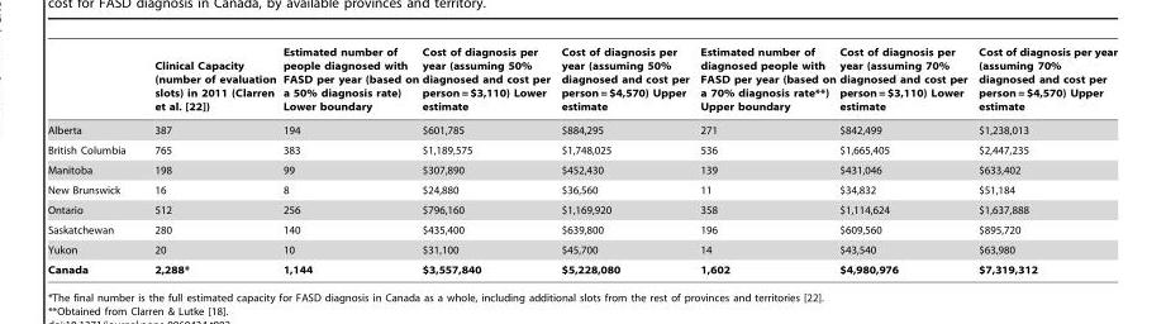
<table><thead><tr><td></td><td>Clinical Capacity (number of evaluation slots) in 2011 (Clarren et al. [22])</td><td>Estimated number of people diagnosed with FASD per year (based on a 50% diagnosis rate) Lower boundary</td><td>Cost of diagnosis per year (assuming 50% diagnosed and cost per person = $3,110) Lower estimate</td><td>Cost of diagnosis per year (assuming 50% diagnosed and cost per person = $4,570) Upper estimate</td><td>Estimated number of diagnosed people with FASD per year (based on a 70% diagnosis rate**) Upper boundary</td><td>Cost of diagnosis per year (assuming 70% diagnosed and cost per person = $3,110) Lower estimate</td><td>Cost of diagnosis per year (assuming 70% diagnosed and cost per person = $4,570) Upper estimate</td></tr></thead><tbody><tr><td>Alberta</td><td>387</td><td>194</td><td>$601,785</td><td>$884,295</td><td>271</td><td>$842,499</td><td>$1,238,013</td></tr><tr><td>British Columbia</td><td>765</td><td>383</td><td>$1,189,575</td><td>$1,748,025</td><td>536</td><td>$1,665,405</td><td>$2,447,235</td></tr><tr><td>Manitoba</td><td>198</td><td>99</td><td>$307,890</td><td>$452,430</td><td>139</td><td>$431,046</td><td>$633,402</td></tr><tr><td>New Brunswick</td><td>16</td><td>8</td><td>$24,880</td><td>$36,560</td><td>11</td><td>$34,832</td><td>$51,184</td></tr><tr><td>Ontario</td><td>512</td><td>256</td><td>$796,160</td><td>$1,169,920</td><td>358</td><td>$1,114,624</td><td>$1,637,888</td></tr><tr><td>Saskatchewan</td><td>280</td><td>140</td><td>$435,400</td><td>$639,800</td><td>196</td><td>$609,560</td><td>$895,720</td></tr><tr><td>Yukon</td><td>20</td><td>10</td><td>$31,100</td><td>$45,700</td><td>14</td><td>$43,540</td><td>$63,980</td></tr><tr><td>Canada</td><td>2,288*</td><td>1,144</td><td>$3,557,840</td><td>$5,228,080</td><td>1,602</td><td>$4,980,976</td><td>$7,319,312</td></tr></tbody></table>